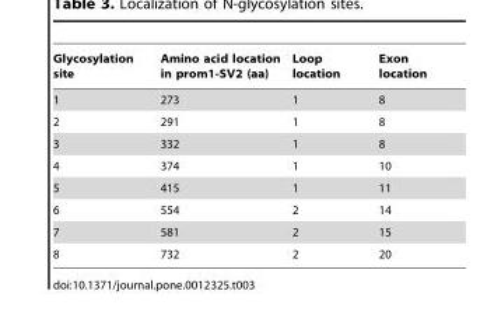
<table><thead><tr><td>Glycosylation site</td><td>Amino acid location in prom1-SV2 (aa)</td><td>Loop location</td><td>Exon location</td></tr></thead><tbody><tr><td>1</td><td>273</td><td>1</td><td>8</td></tr><tr><td>2</td><td>291</td><td>1</td><td>8</td></tr><tr><td>3</td><td>332</td><td>1</td><td>8</td></tr><tr><td>4</td><td>374</td><td>1</td><td>10</td></tr><tr><td>5</td><td>415</td><td>1</td><td>11</td></tr><tr><td>6</td><td>554</td><td>2</td><td>14</td></tr><tr><td>7</td><td>581</td><td>2</td><td>15</td></tr><tr><td>8</td><td>732</td><td>2</td><td>20</td></tr></tbody></table>